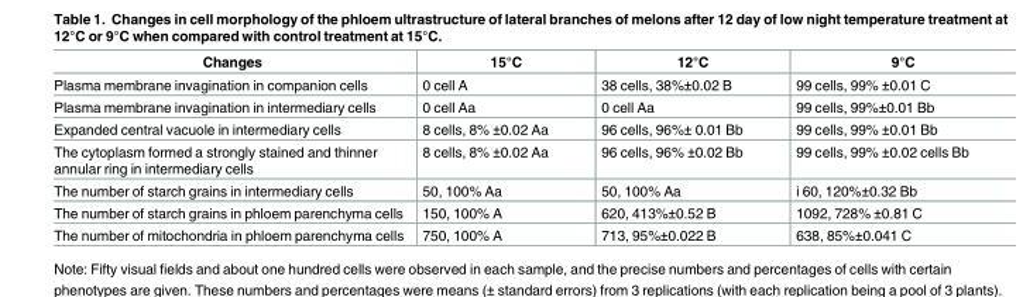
<table><thead><tr><td>Changes</td><td>15°C</td><td>12°C</td><td>9°C</td></tr></thead><tbody><tr><td>Plasma membrane invagination in companion cells</td><td>0 cell A</td><td>38 cells, 38%±0.02 B</td><td>99 cells, 99% ±0.01 C</td></tr><tr><td>Plasma membrane invagination in intermediary cells</td><td>0 cell Aa</td><td>0 cell Aa</td><td>99 cells, 99%±0.01 Bb</td></tr><tr><td>Expanded central vacuole in intermediary cells</td><td>8 cells, 8% ±0.02 Aa</td><td>96 cells, 96%± 0.01 Bb</td><td>99 cells, 99% ±0.01 Bb</td></tr><tr><td>The cytoplasm formed a strongly stained and thinner annular ring in intermediary cells</td><td>8 cells, 8% ±0.02 Aa</td><td>96 cells, 96% ±0.02 Bb</td><td>99 cells, 99% ±0.02 cells Bb</td></tr><tr><td>The number of starch grains in intermediary cells</td><td>50, 100% Aa</td><td>50, 100% Aa</td><td>i 60, 120%±0.32 Bb</td></tr><tr><td>The number of starch grains in phloem parenchyma cells</td><td>150, 100% A</td><td>620, 413%±0.52 B</td><td>1092, 728% ±0.81 C</td></tr><tr><td>The number of mitochondria in phloem parenchyma cells</td><td>750, 100% A</td><td>713, 95%±0.022 B</td><td>638, 85%±0.041 C</td></tr></tbody></table>